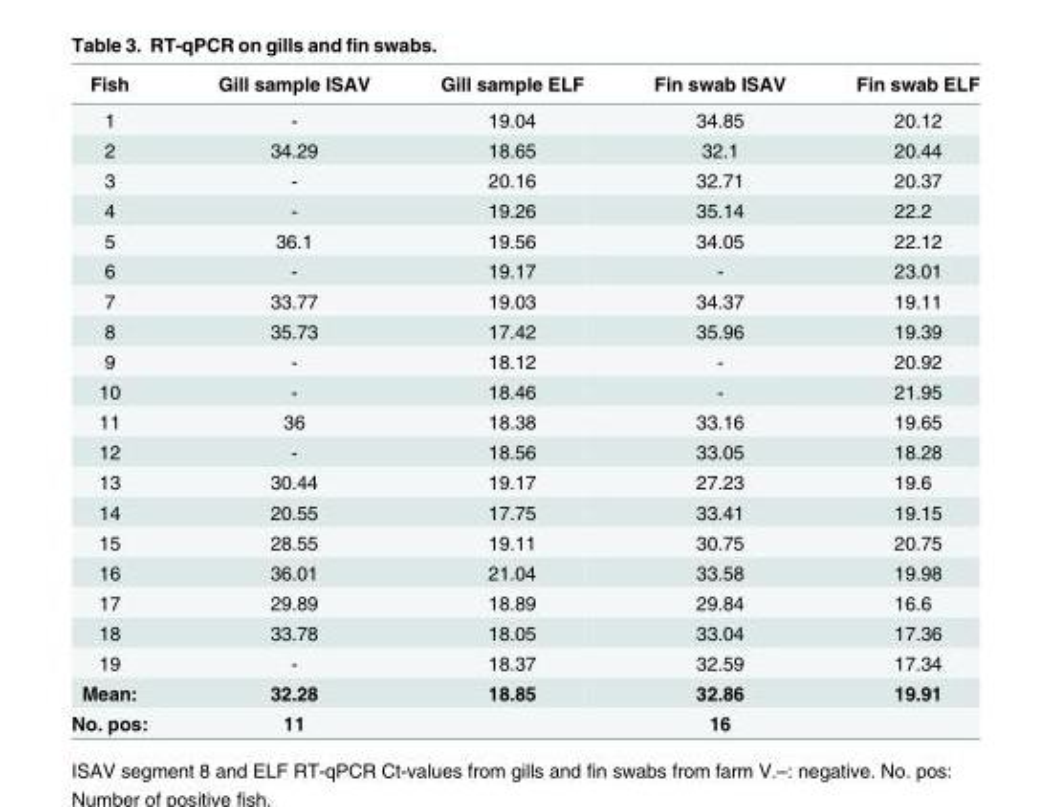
<table><thead><tr><td>Fish</td><td>Gill sample ISAV</td><td>Gill sample ELF</td><td>Fin swab ISAV</td><td>Fin swab ELF</td></tr></thead><tbody><tr><td>1</td><td>-</td><td>19.04</td><td>34.85</td><td>20.12</td></tr><tr><td>2</td><td>34.29</td><td>18.65</td><td>32.1</td><td>20.44</td></tr><tr><td>3</td><td>-</td><td>20.16</td><td>32.71</td><td>20.37</td></tr><tr><td>4</td><td>-</td><td>19.26</td><td>35.14</td><td>22.2</td></tr><tr><td>5</td><td>36.1</td><td>19.56</td><td>34.05</td><td>22.12</td></tr><tr><td>6</td><td>-</td><td>19.17</td><td>-</td><td>23.01</td></tr><tr><td>7</td><td>33.77</td><td>19.03</td><td>34.37</td><td>19.11</td></tr><tr><td>8</td><td>35.73</td><td>17.42</td><td>35.96</td><td>19.39</td></tr><tr><td>9</td><td>-</td><td>18.12</td><td>-</td><td>20.92</td></tr><tr><td>10</td><td>-</td><td>18.46</td><td>-</td><td>21.95</td></tr><tr><td>11</td><td>36</td><td>18.38</td><td>33.16</td><td>19.65</td></tr><tr><td>12</td><td>-</td><td>18.56</td><td>33.05</td><td>18.28</td></tr><tr><td>13</td><td>30.44</td><td>19.17</td><td>27.23</td><td>19.6</td></tr><tr><td>14</td><td>20.55</td><td>17.75</td><td>33.41</td><td>19.15</td></tr><tr><td>15</td><td>28.55</td><td>19.11</td><td>30.75</td><td>20.75</td></tr><tr><td>16</td><td>36.01</td><td>21.04</td><td>33.58</td><td>19.98</td></tr><tr><td>17</td><td>29.89</td><td>18.89</td><td>29.84</td><td>16.6</td></tr><tr><td>18</td><td>33.78</td><td>18.05</td><td>33.04</td><td>17.36</td></tr><tr><td>19</td><td>-</td><td>18.37</td><td>32.59</td><td>17.34</td></tr><tr><td>Mean:</td><td>32.28</td><td>18.85</td><td>32.86</td><td>19.91</td></tr><tr><td>No. pos:</td><td>11</td><td></td><td>16</td><td></td></tr></tbody></table>